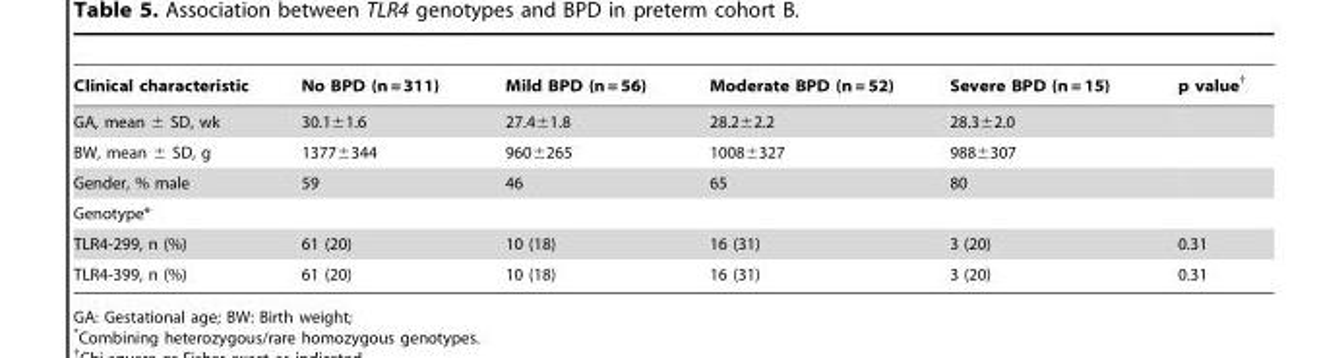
<table><thead><tr><td>Clinical characteristic</td><td>No BPD (n = 311)</td><td>Mild BPD (n = 56)</td><td>Moderate BPD (n = 52)</td><td>Severe BPD (n = 15)</td><td>p value†</td></tr></thead><tbody><tr><td>GA, mean ± SD, wk</td><td>30.1±1.6</td><td>27.4±1.8</td><td>28.2±2.2</td><td>28.3±2.0</td><td></td></tr><tr><td>BW, mean ± SD, g</td><td>1377±344</td><td>960±265</td><td>1008±327</td><td>988±307</td><td></td></tr><tr><td>Gender, % male</td><td>59</td><td>46</td><td>65</td><td>80</td><td></td></tr><tr><td colspan="6">Genotype*</td></tr><tr><td>TLR4-299, n (%)</td><td>61 (20)</td><td>10 (18)</td><td>16 (31)</td><td>3 (20)</td><td>0.31</td></tr><tr><td>TLR4-399, n (%)</td><td>61 (20)</td><td>10 (18)</td><td>16 (31)</td><td>3 (20)</td><td>0.31</td></tr></tbody></table>